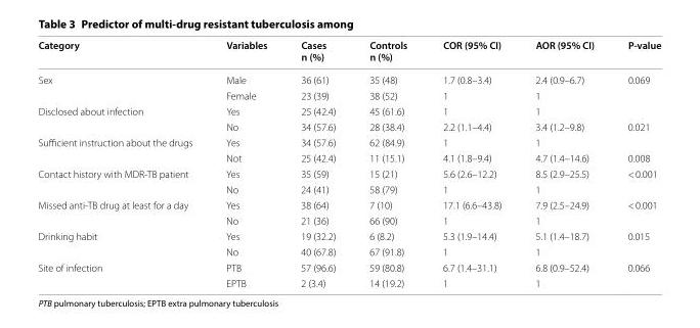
<table><thead><tr><td>Category</td><td>Variables</td><td>Cases n (%)</td><td>Controls n (%)</td><td>COR (95% CI)</td><td>AOR (95% CI)</td><td>P‑value</td></tr></thead><tbody><tr><td rowspan="2">Sex</td><td>Male</td><td>36 (61)</td><td>35 (48)</td><td>1.7 (0.8–3.4)</td><td>2.4 (0.9–6.7)</td><td>0.069</td></tr><tr><td>Female</td><td>23 (39)</td><td>38 (52)</td><td>1</td><td>1</td><td></td></tr><tr><td rowspan="2">Disclosed about infection</td><td>Yes</td><td>25 (42.4)</td><td>45 (61.6)</td><td>1</td><td>1</td><td></td></tr><tr><td>No</td><td>34 (57.6)</td><td>28 (38.4)</td><td>2.2 (1.1–4.4)</td><td>3.4 (1.2–9.8)</td><td>0.021</td></tr><tr><td rowspan="2">Sufficient instruction about the drugs</td><td>Yes</td><td>34 (57.6)</td><td>62 (84.9)</td><td>1</td><td>1</td><td></td></tr><tr><td>Not</td><td>25 (42.4)</td><td>11 (15.1)</td><td>4.1 (1.8–9.4)</td><td>4.7 (1.4–14.6)</td><td>0.008</td></tr><tr><td rowspan="2">Contact history with MDR-TB patient</td><td>Yes</td><td>35 (59)</td><td>15 (21)</td><td>5.6 (2.6–12.2)</td><td>8.5 (2.9–25.5)</td><td>&lt; 0.001</td></tr><tr><td>No</td><td>24 (41)</td><td>58 (79)</td><td>1</td><td>1</td><td></td></tr><tr><td rowspan="2">Missed anti-TB drug at least for a day</td><td>Yes</td><td>38 (64)</td><td>7 (10)</td><td>17.1 (6.6–43.8)</td><td>7.9 (2.5–24.9)</td><td>&lt; 0.001</td></tr><tr><td>No</td><td>21 (36)</td><td>66 (90)</td><td>1</td><td>1</td><td></td></tr><tr><td rowspan="2">Drinking habit</td><td>Yes</td><td>19 (32.2)</td><td>6 (8.2)</td><td>5.3 (1.9–14.4)</td><td>5.1 (1.4–18.7)</td><td>0.015</td></tr><tr><td>No</td><td>40 (67.8)</td><td>67 (91.8)</td><td>1</td><td>1</td><td></td></tr><tr><td rowspan="2">Site of infection</td><td>PTB</td><td>57 (96.6)</td><td>59 (80.8)</td><td>6.7 (1.4–31.1)</td><td>6.8 (0.9–52.4)</td><td>0.066</td></tr><tr><td>EPTB</td><td>2 (3.4)</td><td>14 (19.2)</td><td>1</td><td>1</td><td></td></tr></tbody></table>